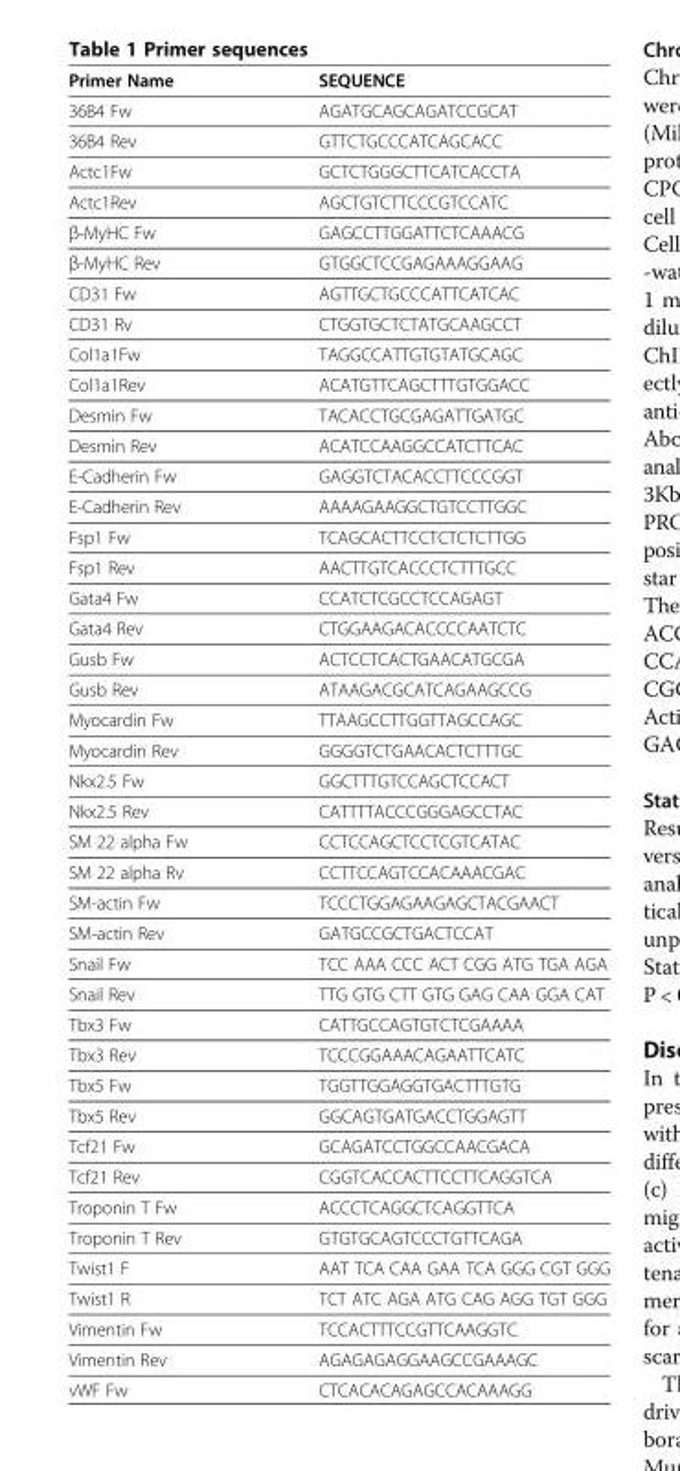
<table><thead><tr><td>Primer Name</td><td>SEQUENCE</td></tr></thead><tbody><tr><td>36B4 Fw</td><td>AGATGCAGCAGATCCGCAT</td></tr><tr><td>36B4 Rev</td><td>GTTCTGCCCATCAGCACC</td></tr><tr><td>Actc1Fw</td><td>GCTCTGGGCTTCATCACCTA</td></tr><tr><td>Actc1Rev</td><td>AGCTGTCTTCCCGTCCATC</td></tr><tr><td>β-MyHC Fw</td><td>GAGCCTTGGATTCTCAAACG</td></tr><tr><td>β-MyHC Rev</td><td>GTGGCTCCGAGAAAGGAAG</td></tr><tr><td>CD31 Fw</td><td>AGTTGCTGCCCATTCATCAC</td></tr><tr><td>CD31 Rv</td><td>CTGGTGCTCTATGCAAGCCT</td></tr><tr><td>Col1a1Fw</td><td>TAGGCCATTGTGTATGCAGC</td></tr><tr><td>Col1a1Rev</td><td>ACATGTTCAGCTTTGTGGACC</td></tr><tr><td>Desmin Fw</td><td>TACACCTGCGAGATTGATGC</td></tr><tr><td>Desmin Rev</td><td>ACATCCAAGGCCATCTTCAC</td></tr><tr><td>E-Cadherin Fw</td><td>GAGGTCTACACCTTCCCGGT</td></tr><tr><td>E-Cadherin Rev</td><td>AAAAGAAGGCTGTCCTTGGC</td></tr><tr><td>Fsp1 Fw</td><td>TCAGCACTTCCTCTCTCTTGG</td></tr><tr><td>Fsp1 Rev</td><td>AACTTGTCACCCTCTTTGCC</td></tr><tr><td>Gata4 Fw</td><td>CCATCTCGCCTCCAGAGT</td></tr><tr><td>Gata4 Rev</td><td>CTGGAAGACACCCCAATCTC</td></tr><tr><td>Gusb Fw</td><td>ACTCCTCACTGAACATGCGA</td></tr><tr><td>Gusb Rev</td><td>ATAAGACGCATCAGAAGCCG</td></tr><tr><td>Myocardin Fw</td><td>TTAAGCCTTGGTTAGCCAGC</td></tr><tr><td>Myocardin Rev</td><td>GGGGTCTGAACACTCTTTGC</td></tr><tr><td>Nkx2.5 Fw</td><td>GGCTTTGTCCAGCTCCACT</td></tr><tr><td>Nkx2.5 Rev</td><td>CATTTTACCCGGGAGCCTAC</td></tr><tr><td>SM 22 alpha Fw</td><td>CCTCCAGCTCCTCGTCATAC</td></tr><tr><td>SM 22 alpha Rv</td><td>CCTTCCAGTCCACAAACGAC</td></tr><tr><td>SM-actin Fw</td><td>TCCCTGGAGAAGAGCTACGAACT</td></tr><tr><td>SM-actin Rev</td><td>GATGCCGCTGACTCCAT</td></tr><tr><td>Snail Fw</td><td>TCC AAA CCC ACT CGG ATG TGA AGA</td></tr><tr><td>Snail Rev</td><td>TTG GTG CTT GTG GAG CAA GGA CAT</td></tr><tr><td>Tbx3 Fw</td><td>CATTGCCAGTGTCTCGAAAA</td></tr><tr><td>Tbx3 Rev</td><td>TCCCGGAAACAGAATTCATC</td></tr><tr><td>Tbx5 Fw</td><td>TGGTTGGAGGTGACTTTGTG</td></tr><tr><td>Tbx5 Rev</td><td>GGCAGTGATGACCTGGAGTT</td></tr><tr><td>Tcf21 Fw</td><td>GCAGATCCTGGCCAACGACA</td></tr><tr><td>Tcf21 Rev</td><td>CGGTCACCACTTCCTTCAGGTCA</td></tr><tr><td>Troponin T Fw</td><td>ACCCTCAGGCTCAGGTTCA</td></tr><tr><td>Troponin T Rev</td><td>GTGTGCAGTCCCTGTTCAGA</td></tr><tr><td>Twist1 F</td><td>AAT TCA CAA GAA TCA GGG CGT GGG</td></tr><tr><td>Twist1 R</td><td>TCT ATC AGA ATG CAG AGG TGT GGG</td></tr><tr><td>Vimentin Fw</td><td>TCCACTTTCCGTTCAAGGTC</td></tr><tr><td>Vimentin Rev</td><td>AGAGAGAGGAAGCCGAAAGC</td></tr><tr><td>vWF Fw</td><td>CTCACACAGAGCCACAAAGG</td></tr></tbody></table>